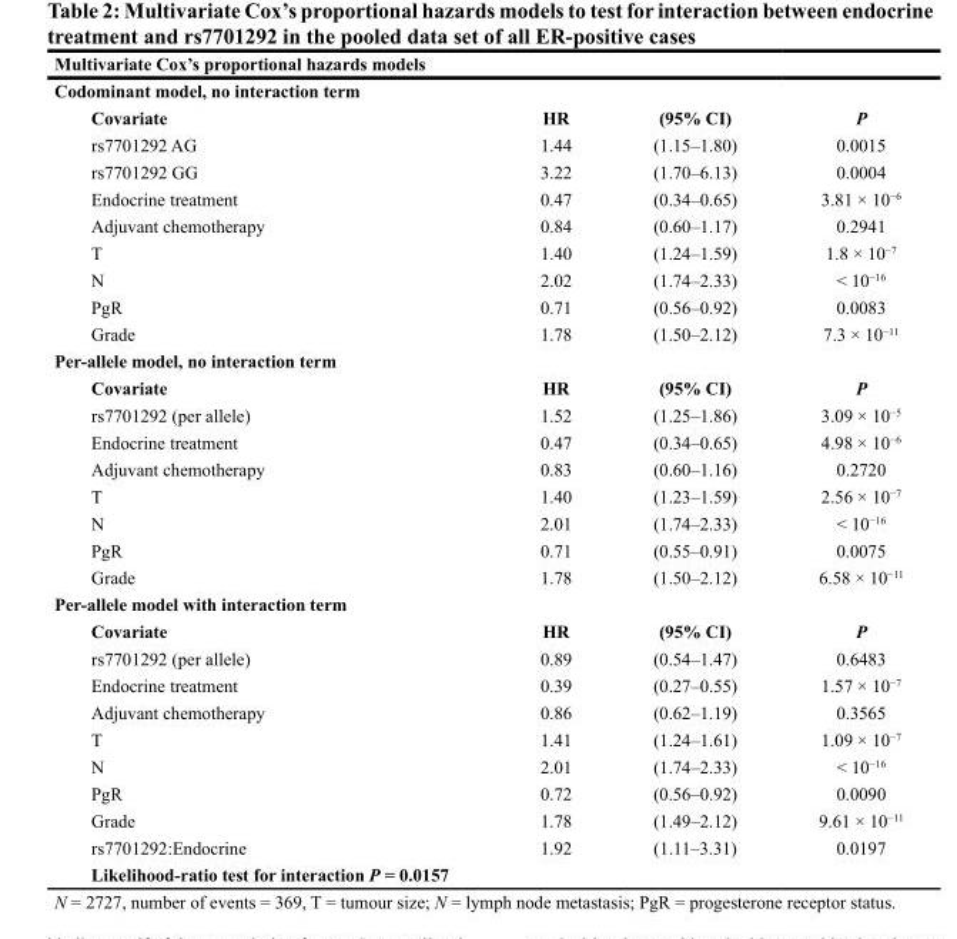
<table><thead><tr><td rowspan="2" colspan="4">Multivariate Cox’s proportional hazards models Codominant model, no interaction term</td></tr><tr></tr><tr><td>Covariate</td><td>HR</td><td>(95% CI)</td><td>P</td></tr></thead><tbody><tr><td>rs7701292 AG</td><td>1.44</td><td>(1.15–1.80)</td><td>0.0015</td></tr><tr><td>rs7701292 GG</td><td>3.22</td><td>(1.70–6.13)</td><td>0.0004</td></tr><tr><td>Endocrine treatment</td><td>0.47</td><td>(0.34–0.65)</td><td>3.81 × 10<sup>−6</sup></td></tr><tr><td>Adjuvant chemotherapy</td><td>0.84</td><td>(0.60–1.17)</td><td>0.2941</td></tr><tr><td>T</td><td>1.40</td><td>(1.24–1.59)</td><td>1.8 × 10<sup>−7</sup></td></tr><tr><td>N</td><td>2.02</td><td>(1.74–2.33)</td><td>&lt; 10<sup>−16</sup></td></tr><tr><td>PgR</td><td>0.71</td><td>(0.56–0.92)</td><td>0.0083</td></tr><tr><td>Grade</td><td>1.78</td><td>(1.50–2.12)</td><td>7.3 × 10<sup>−11</sup></td></tr><tr><td colspan="4">Per-allele model, no interaction term</td></tr><tr><td>Covariate</td><td>HR</td><td>(95% CI)</td><td>P</td></tr><tr><td>rs7701292 (per allele)</td><td>1.52</td><td>(1.25–1.86)</td><td>3.09 × 10<sup>−5</sup></td></tr><tr><td>Endocrine treatment</td><td>0.47</td><td>(0.34–0.65)</td><td>4.98 × 10<sup>−6</sup></td></tr><tr><td>Adjuvant chemotherapy</td><td>0.83</td><td>(0.60–1.16)</td><td>0.2720</td></tr><tr><td>T</td><td>1.40</td><td>(1.23–1.59)</td><td>2.56 × 10<sup>−7</sup></td></tr><tr><td>N</td><td>2.01</td><td>(1.74–2.33)</td><td>&lt; 10<sup>−16</sup></td></tr><tr><td>PgR</td><td>0.71</td><td>(0.55–0.91)</td><td>0.0075</td></tr><tr><td>Grade</td><td>1.78</td><td>(1.50–2.12)</td><td>6.58 × 10<sup>−11</sup></td></tr><tr><td colspan="4">Per-allele model with interaction term</td></tr><tr><td>Covariate</td><td>HR</td><td>(95% CI)</td><td>P</td></tr><tr><td>rs7701292 (per allele)</td><td>0.89</td><td>(0.54–1.47)</td><td>0.6483</td></tr><tr><td>Endocrine treatment</td><td>0.39</td><td>(0.27–0.55)</td><td>1.57 × 10<sup>−7</sup></td></tr><tr><td>Adjuvant chemotherapy</td><td>0.86</td><td>(0.62–1.19)</td><td>0.3565</td></tr><tr><td>T</td><td>1.41</td><td>(1.24–1.61)</td><td>1.09 × 10<sup>−7</sup></td></tr><tr><td>N</td><td>2.01</td><td>(1.74–2.33)</td><td>&lt; 10<sup>−16</sup></td></tr><tr><td>PgR</td><td>0.72</td><td>(0.56–0.92)</td><td>0.0090</td></tr><tr><td>Grade</td><td>1.78</td><td>(1.49–2.12)</td><td>9.61 × 10<sup>−11</sup></td></tr><tr><td>rs7701292:Endocrine</td><td>1.92</td><td>(1.11–3.31)</td><td>0.0197</td></tr><tr><td colspan="4">Likelihood-ratio test for interaction P = 0.0157</td></tr></tbody></table>